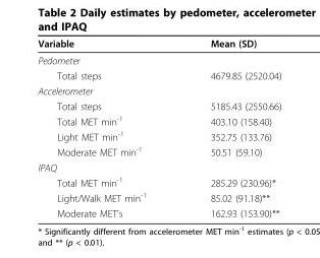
<table><thead><tr><td>Variable</td><td>Mean (SD)</td></tr></thead><tbody><tr><td colspan="2">Pedometer</td></tr><tr><td>Total steps</td><td>4679.85 (2520.04)</td></tr><tr><td colspan="2">Accelerometer</td></tr><tr><td>Total steps</td><td>5185.43 (2550.66)</td></tr><tr><td>Total MET min<sup>-1</sup></td><td>403.10 (158.40)</td></tr><tr><td>Light MET min<sup>-1</sup></td><td>352.75 (133.76)</td></tr><tr><td>Moderate MET min<sup>-1</sup></td><td>50.51 (59.10)</td></tr><tr><td colspan="2">IPAQ</td></tr><tr><td>Total MET min<sup>-1</sup></td><td>285.29 (230.96)*</td></tr><tr><td>Light/Walk MET min<sup>-1</sup></td><td>85.02 (91.18)**</td></tr><tr><td>Moderate MET’s</td><td>162.93 (153.90)**</td></tr></tbody></table>